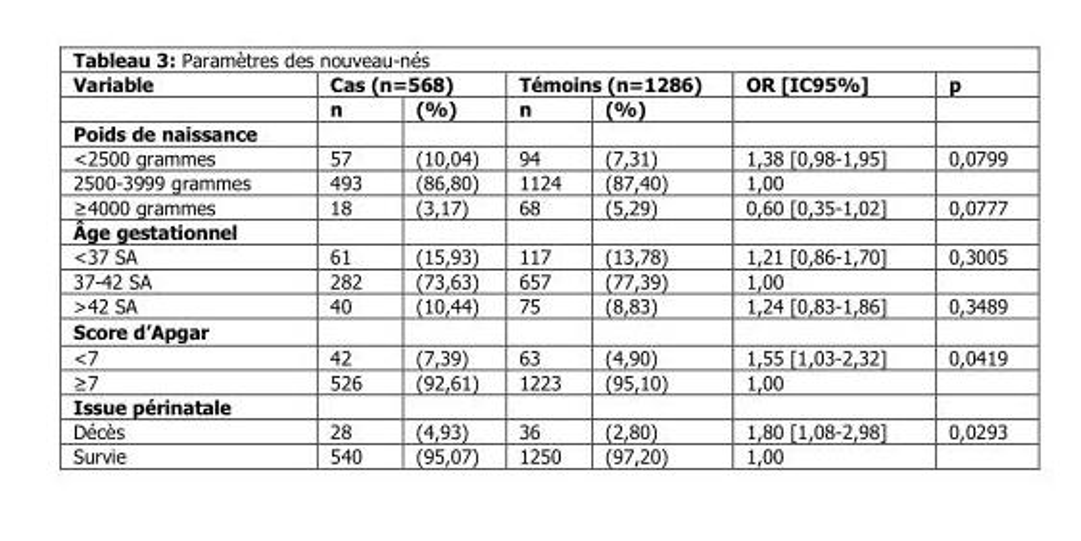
<table><thead><tr><td rowspan="2">Variable</td><td colspan="2">Cas (n=568)</td><td colspan="2">Témoins (n=1286)</td><td rowspan="2">OR [IC95%]</td><td rowspan="2">p</td></tr><tr><td>n</td><td>(%)</td><td>n</td><td>(%)</td></tr></thead><tbody><tr><td colspan="7">Poids de naissance</td></tr><tr><td>&lt;2500 grammes</td><td>57</td><td>(10,04)</td><td>94</td><td>(7,31)</td><td>1,38 [0,98-1,95]</td><td>0,0799</td></tr><tr><td>2500-3999 grammes</td><td>493</td><td>(86,80)</td><td>1124</td><td>(87,40)</td><td>1,00</td><td></td></tr><tr><td>≥4000 grammes</td><td>18</td><td>(3,17)</td><td>68</td><td>(5,29)</td><td>0,60 [0,35-1,02]</td><td>0,0777</td></tr><tr><td colspan="7">Âge gestationnel</td></tr><tr><td>&lt;37 SA</td><td>61</td><td>(15,93)</td><td>117</td><td>(13,78)</td><td>1,21 [0,86-1,70]</td><td>0,3005</td></tr><tr><td>37-42 SA</td><td>282</td><td>(73,63)</td><td>657</td><td>(77,39)</td><td>1,00</td><td></td></tr><tr><td>&gt;42 SA</td><td>40</td><td>(10,44)</td><td>75</td><td>(8,83)</td><td>1,24 [0,83-1,86]</td><td>0,3489</td></tr><tr><td colspan="7">Score d’Apgar</td></tr><tr><td>&lt;7</td><td>42</td><td>(7,39)</td><td>63</td><td>(4,90)</td><td>1,55 [1,03-2,32]</td><td>0,0419</td></tr><tr><td>≥7</td><td>526</td><td>(92,61)</td><td>1223</td><td>(95,10)</td><td>1,00</td><td></td></tr><tr><td colspan="7">Issue périnatale</td></tr><tr><td>Décès</td><td>28</td><td>(4,93)</td><td>36</td><td>(2,80)</td><td>1,80 [1,08-2,98]</td><td>0,0293</td></tr><tr><td>Survie</td><td>540</td><td>(95,07)</td><td>1250</td><td>(97,20)</td><td>1,00</td><td></td></tr></tbody></table>